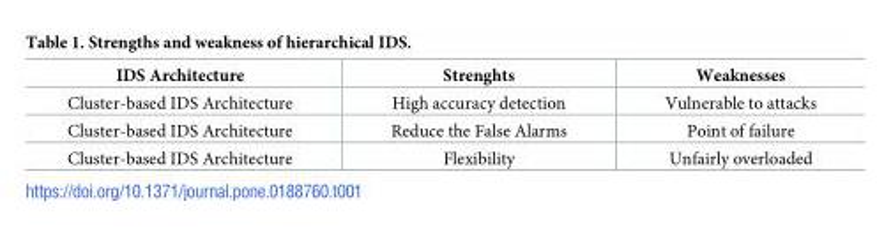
<table><thead><tr><td>IDS Architecture</td><td>Strenghts</td><td>Weaknesses</td></tr></thead><tbody><tr><td>Cluster-based IDS Architecture</td><td>High accuracy detection</td><td>Vulnerable to attacks</td></tr><tr><td>Cluster-based IDS Architecture</td><td>Reduce the False Alarms</td><td>Point of failure</td></tr><tr><td>Cluster-based IDS Architecture</td><td>Flexibility</td><td>Unfairly overloaded</td></tr></tbody></table>